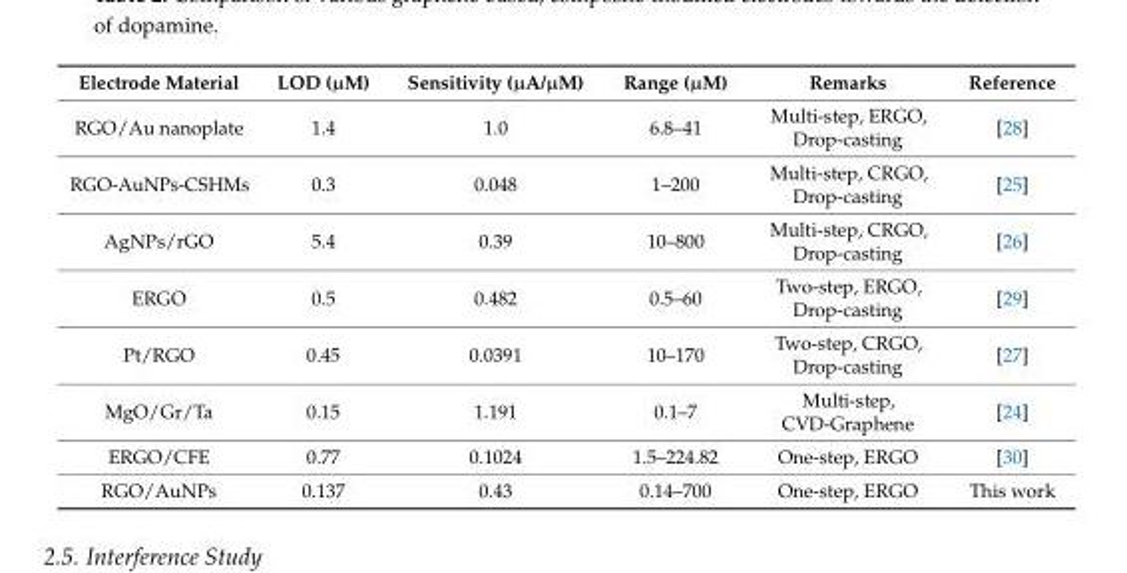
<table><thead><tr><td>Electrode Material</td><td>LOD (µM)</td><td>Sensitivity (µA/µM)</td><td>Range (µM)</td><td>Remarks</td><td>Reference</td></tr></thead><tbody><tr><td>RGO/Au nanoplate</td><td>1.4</td><td>1.0</td><td>6.8–41</td><td>Multi-step, ERGO, Drop-casting</td><td>[28]</td></tr><tr><td>RGO-AuNPs-CSHMs</td><td>0.3</td><td>0.048</td><td>1–200</td><td>Multi-step, CRGO, Drop-casting</td><td>[25]</td></tr><tr><td>AgNPs/rGO</td><td>5.4</td><td>0.39</td><td>10–800</td><td>Multi-step, CRGO, Drop-casting</td><td>[26]</td></tr><tr><td>ERGO</td><td>0.5</td><td>0.482</td><td>0.5–60</td><td>Two-step, ERGO, Drop-casting</td><td>[29]</td></tr><tr><td>Pt/RGO</td><td>0.45</td><td>0.0391</td><td>10–170</td><td>Two-step, CRGO, Drop-casting</td><td>[27]</td></tr><tr><td>MgO/Gr/Ta</td><td>0.15</td><td>1.191</td><td>0.1–7</td><td>Multi-step, CVD-Graphene</td><td>[24]</td></tr><tr><td>ERGO/CFE</td><td>0.77</td><td>0.1024</td><td>1.5–224.82</td><td>One-step, ERGO</td><td>[30]</td></tr><tr><td>RGO/AuNPs</td><td>0.137</td><td>0.43</td><td>0.14–700</td><td>One-step, ERGO</td><td>This work</td></tr></tbody></table>